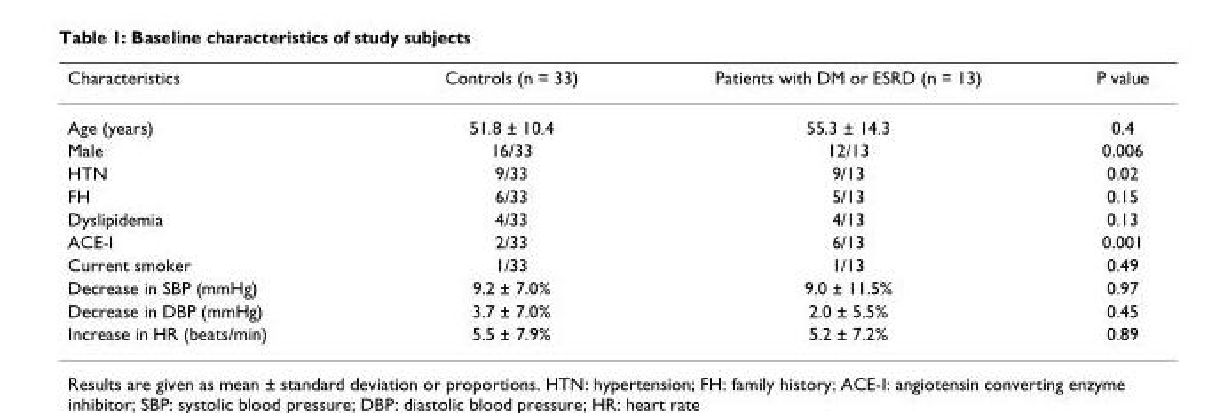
<table><thead><tr><td>Characteristics</td><td>Controls (n = 33)</td><td>Patients with DM or ESRD (n = 13)</td><td>P value</td></tr></thead><tbody><tr><td>Age (years)</td><td>51.8 ± 10.4</td><td>55.3 ± 14.3</td><td>0.4</td></tr><tr><td>Male</td><td>16/33</td><td>12/13</td><td>0.006</td></tr><tr><td>HTN</td><td>9/33</td><td>9/13</td><td>0.02</td></tr><tr><td>FH</td><td>6/33</td><td>5/13</td><td>0.15</td></tr><tr><td>Dyslipidemia</td><td>4/33</td><td>4/13</td><td>0.13</td></tr><tr><td>ACE-I</td><td>2/33</td><td>6/13</td><td>0.001</td></tr><tr><td>Current smoker</td><td>1/33</td><td>1/13</td><td>0.49</td></tr><tr><td>Decrease in SBP (mmHg)</td><td>9.2 ± 7.0%</td><td>9.0 ± 11.5%</td><td>0.97</td></tr><tr><td>Decrease in DBP (mmHg)</td><td>3.7 ± 7.0%</td><td>2.0 ± 5.5%</td><td>0.45</td></tr><tr><td>Increase in HR (beats/min)</td><td>5.5 ± 7.9%</td><td>5.2 ± 7.2%</td><td>0.89</td></tr></tbody></table>